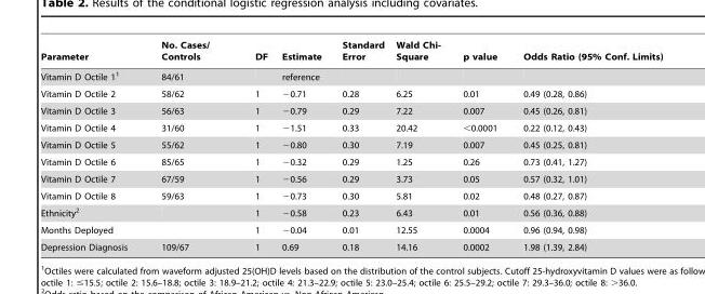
<table><thead><tr><td>Parameter</td><td>No. Cases/ Controls</td><td>DF</td><td>Estimate</td><td>Standard Error</td><td>Wald Chi- Square</td><td>p value</td><td>Odds Ratio (95% Conf. Limits)</td></tr></thead><tbody><tr><td>Vitamin D Octile 1<sup>1</sup></td><td>84/61</td><td></td><td>reference</td><td></td><td></td><td></td><td></td></tr><tr><td>Vitamin D Octile 2</td><td>58/62</td><td>1</td><td>−0.71</td><td>0.28</td><td>6.25</td><td>0.01</td><td>0.49 (0.28, 0.86)</td></tr><tr><td>Vitamin D Octile 3</td><td>56/63</td><td>1</td><td>−0.79</td><td>0.29</td><td>7.22</td><td>0.007</td><td>0.45 (0.26, 0.81)</td></tr><tr><td>Vitamin D Octile 4</td><td>31/60</td><td>1</td><td>−1.51</td><td>0.33</td><td>20.42</td><td>&lt;0.0001</td><td>0.22 (0.12, 0.43)</td></tr><tr><td>Vitamin D Octile 5</td><td>55/62</td><td>1</td><td>−0.80</td><td>0.30</td><td>7.19</td><td>0.007</td><td>0.45 (0.25, 0.81)</td></tr><tr><td>Vitamin D Octile 6</td><td>85/65</td><td>1</td><td>−0.32</td><td>0.29</td><td>1.25</td><td>0.26</td><td>0.73 (0.41, 1.27)</td></tr><tr><td>Vitamin D Octile 7</td><td>67/59</td><td>1</td><td>−0.56</td><td>0.29</td><td>3.73</td><td>0.05</td><td>0.57 (0.32, 1.01)</td></tr><tr><td>Vitamin D Octile 8</td><td>59/63</td><td>1</td><td>−0.73</td><td>0.30</td><td>5.81</td><td>0.02</td><td>0.48 (0.27, 0.87)</td></tr><tr><td>Ethnicity<sup>2</sup></td><td></td><td>1</td><td>−0.58</td><td>0.23</td><td>6.43</td><td>0.01</td><td>0.56 (0.36, 0.88)</td></tr><tr><td>Months Deployed</td><td></td><td>1</td><td>−0.04</td><td>0.01</td><td>12.55</td><td>0.0004</td><td>0.96 (0.94, 0.98)</td></tr><tr><td>Depression Diagnosis</td><td>109/67</td><td>1</td><td>0.69</td><td>0.18</td><td>14.16</td><td>0.0002</td><td>1.98 (1.39, 2.84)</td></tr></tbody></table>